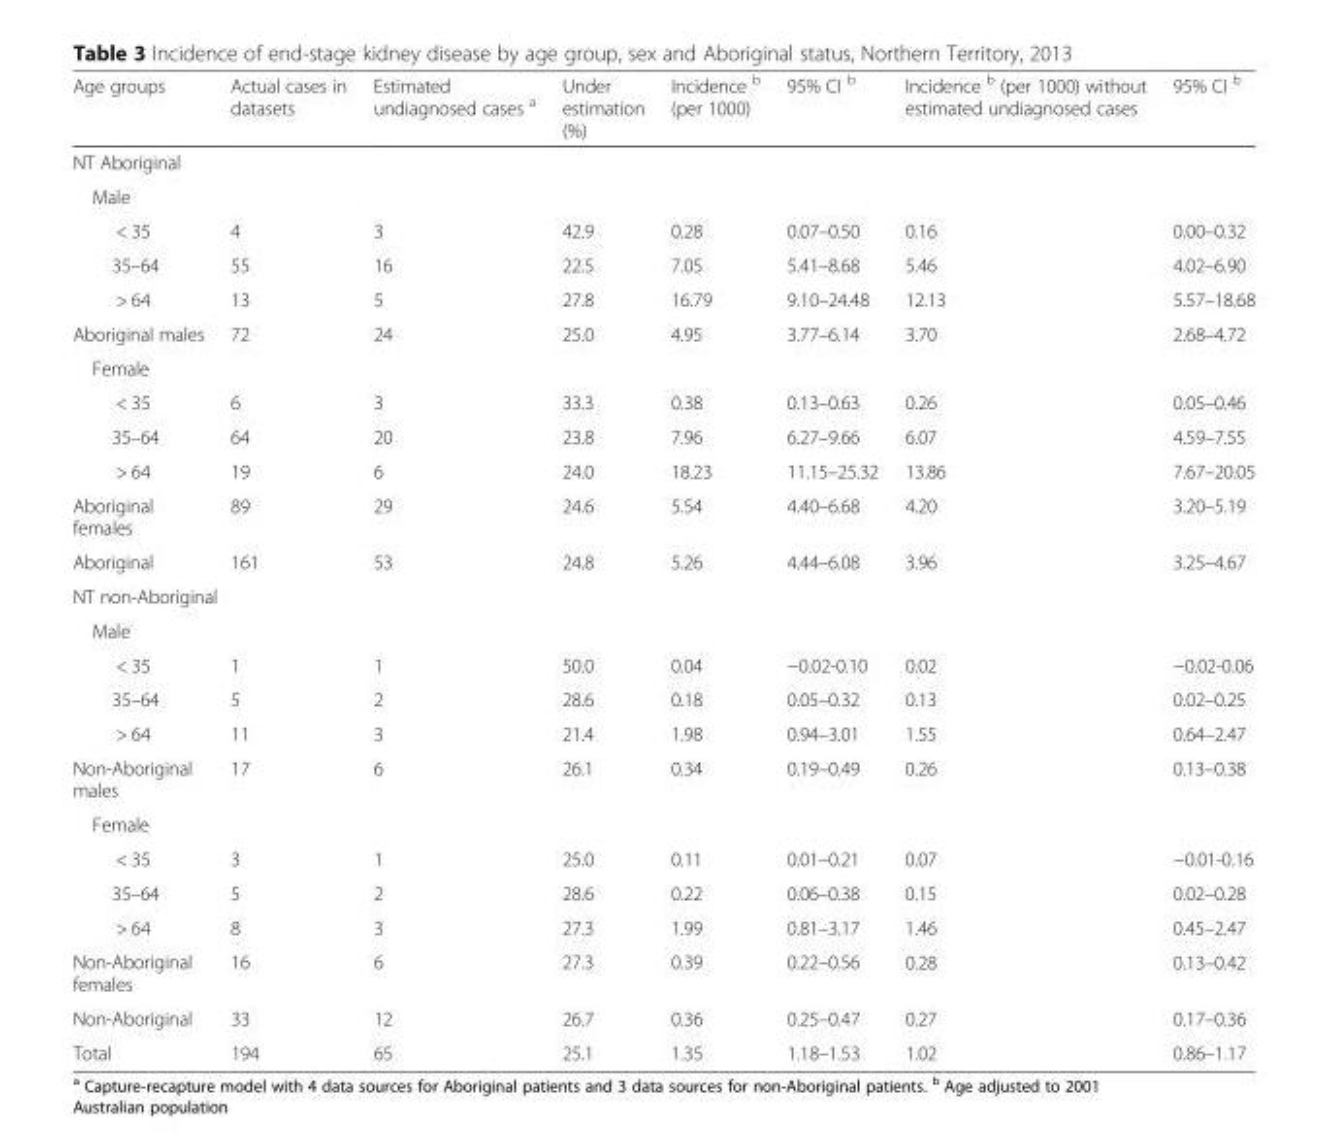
<table><thead><tr><td>Age groups</td><td>Actual cases in datasets</td><td>Estimated undiagnosed cases <sup>a</sup></td><td>Under estimation (%)</td><td>Incidence <sup>b</sup> (per 1000)</td><td>95% CI <sup>b</sup></td><td>Incidence <sup>b</sup> (per 1000) without estimated undiagnosed cases</td><td>95% CI <sup>b</sup></td></tr></thead><tbody><tr><td colspan="8">NT Aboriginal</td></tr><tr><td colspan="8">Male</td></tr><tr><td>&lt; 35</td><td>4</td><td>3</td><td>42.9</td><td>0.28</td><td>0.07–0.50</td><td>0.16</td><td>0.00–0.32</td></tr><tr><td>35–64</td><td>55</td><td>16</td><td>22.5</td><td>7.05</td><td>5.41–8.68</td><td>5.46</td><td>4.02–6.90</td></tr><tr><td>&gt; 64</td><td>13</td><td>5</td><td>27.8</td><td>16.79</td><td>9.10–24.48</td><td>12.13</td><td>5.57–18.68</td></tr><tr><td>Aboriginal males</td><td>72</td><td>24</td><td>25.0</td><td>4.95</td><td>3.77–6.14</td><td>3.70</td><td>2.68–4.72</td></tr><tr><td colspan="8">Female</td></tr><tr><td>&lt; 35</td><td>6</td><td>3</td><td>33.3</td><td>0.38</td><td>0.13–0.63</td><td>0.26</td><td>0.05–0.46</td></tr><tr><td>35–64</td><td>64</td><td>20</td><td>23.8</td><td>7.96</td><td>6.27–9.66</td><td>6.07</td><td>4.59–7.55</td></tr><tr><td>&gt; 64</td><td>19</td><td>6</td><td>24.0</td><td>18.23</td><td>11.15–25.32</td><td>13.86</td><td>7.67–20.05</td></tr><tr><td>Aboriginal females</td><td>89</td><td>29</td><td>24.6</td><td>5.54</td><td>4.40–6.68</td><td>4.20</td><td>3.20–5.19</td></tr><tr><td>Aboriginal</td><td>161</td><td>53</td><td>24.8</td><td>5.26</td><td>4.44–6.08</td><td>3.96</td><td>3.25–4.67</td></tr><tr><td colspan="8">NT non-Aboriginal</td></tr><tr><td colspan="8">Male</td></tr><tr><td>&lt; 35</td><td>1</td><td>1</td><td>50.0</td><td>0.04</td><td>−0.02-0.10</td><td>0.02</td><td>−0.02-0.06</td></tr><tr><td>35–64</td><td>5</td><td>2</td><td>28.6</td><td>0.18</td><td>0.05–0.32</td><td>0.13</td><td>0.02–0.25</td></tr><tr><td>&gt; 64</td><td>11</td><td>3</td><td>21.4</td><td>1.98</td><td>0.94–3.01</td><td>1.55</td><td>0.64–2.47</td></tr><tr><td>Non-Aboriginal males</td><td>17</td><td>6</td><td>26.1</td><td>0.34</td><td>0.19–0.49</td><td>0.26</td><td>0.13–0.38</td></tr><tr><td colspan="8">Female</td></tr><tr><td>&lt; 35</td><td>3</td><td>1</td><td>25.0</td><td>0.11</td><td>0.01–0.21</td><td>0.07</td><td>−0.01-0.16</td></tr><tr><td>35–64</td><td>5</td><td>2</td><td>28.6</td><td>0.22</td><td>0.06–0.38</td><td>0.15</td><td>0.02–0.28</td></tr><tr><td>&gt; 64</td><td>8</td><td>3</td><td>27.3</td><td>1.99</td><td>0.81–3.17</td><td>1.46</td><td>0.45–2.47</td></tr><tr><td>Non-Aboriginal females</td><td>16</td><td>6</td><td>27.3</td><td>0.39</td><td>0.22–0.56</td><td>0.28</td><td>0.13–0.42</td></tr><tr><td>Non-Aboriginal</td><td>33</td><td>12</td><td>26.7</td><td>0.36</td><td>0.25–0.47</td><td>0.27</td><td>0.17–0.36</td></tr><tr><td>Total</td><td>194</td><td>65</td><td>25.1</td><td>1.35</td><td>1.18–1.53</td><td>1.02</td><td>0.86–1.17</td></tr></tbody></table>